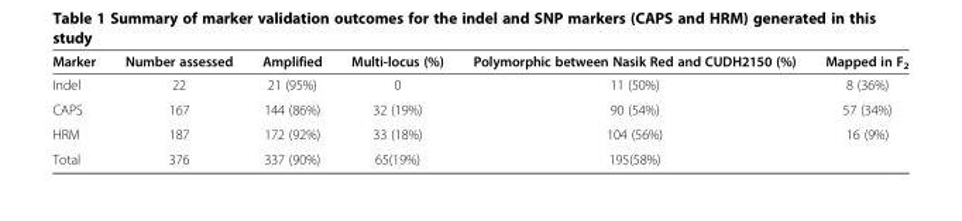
<table><thead><tr><td>Marker</td><td>Number assessed</td><td>Amplified</td><td>Multi-locus (%)</td><td>Polymorphic between Nasik Red and CUDH2150 (%)</td><td>Mapped in F<sub>2</sub></td></tr></thead><tbody><tr><td>Indel</td><td>22</td><td>21 (95%)</td><td>0</td><td>11 (50%)</td><td>8 (36%)</td></tr><tr><td>CAPS</td><td>167</td><td>144 (86%)</td><td>32 (19%)</td><td>90 (54%)</td><td>57 (34%)</td></tr><tr><td>HRM</td><td>187</td><td>172 (92%)</td><td>33 (18%)</td><td>104 (56%)</td><td>16 (9%)</td></tr><tr><td>Total</td><td>376</td><td>337 (90%)</td><td>65(19%)</td><td>195(58%)</td><td></td></tr></tbody></table>